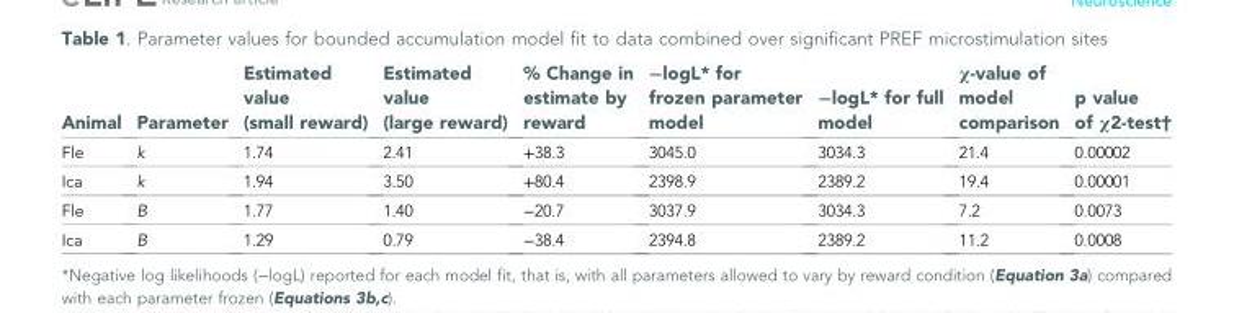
<table><thead><tr><td>Animal</td><td>Parameter</td><td>Estimated value (small reward)</td><td>Estimated value (large reward)</td><td>% Change in estimate by reward</td><td>−logL* for frozen parameter model</td><td>−logL* for full model</td><td>χ-value of model comparison</td><td>p value of χ2-test†</td></tr></thead><tbody><tr><td>Fle</td><td>k</td><td>1.74</td><td>2.41</td><td>+38.3</td><td>3045.0</td><td>3034.3</td><td>21.4</td><td>0.00002</td></tr><tr><td>Ica</td><td>k</td><td>1.94</td><td>3.50</td><td>+80.4</td><td>2398.9</td><td>2389.2</td><td>19.4</td><td>0.00001</td></tr><tr><td>Fle</td><td>B</td><td>1.77</td><td>1.40</td><td>−20.7</td><td>3037.9</td><td>3034.3</td><td>7.2</td><td>0.0073</td></tr><tr><td>Ica</td><td>B</td><td>1.29</td><td>0.79</td><td>−38.4</td><td>2394.8</td><td>2389.2</td><td>11.2</td><td>0.0008</td></tr></tbody></table>